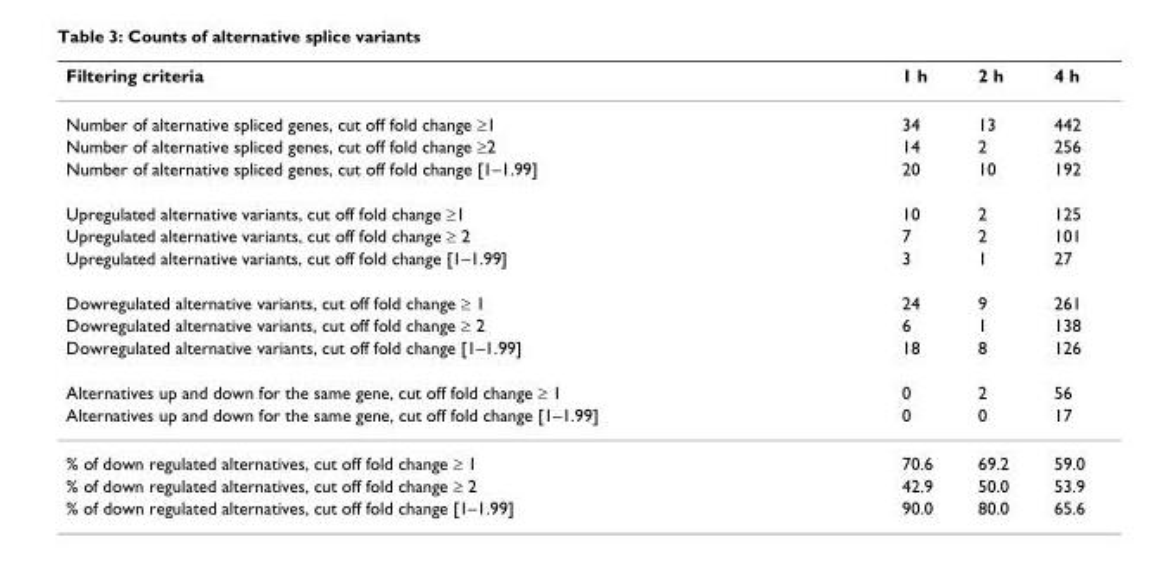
<table><thead><tr><td>Filtering criteria</td><td>1 h</td><td>2 h</td><td>4 h</td></tr></thead><tbody><tr><td>Number of alternative spliced genes, cut off fold change ≥1</td><td>34</td><td>13</td><td>442</td></tr><tr><td>Number of alternative spliced genes, cut off fold change ≥2</td><td>14</td><td>2</td><td>256</td></tr><tr><td>Number of alternative spliced genes, cut off fold change [1–1.99]</td><td>20</td><td>10</td><td>192</td></tr><tr><td>Upregulated alternative variants, cut off fold change ≥1</td><td>10</td><td>2</td><td>125</td></tr><tr><td>Upregulated alternative variants, cut off fold change ≥ 2</td><td>7</td><td>2</td><td>101</td></tr><tr><td>Upregulated alternative variants, cut off fold change [1–1.99]</td><td>3</td><td>1</td><td>27</td></tr><tr><td>Dowregulated alternative variants, cut off fold change ≥ 1</td><td>24</td><td>9</td><td>261</td></tr><tr><td>Dowregulated alternative variants, cut off fold change ≥ 2</td><td>6</td><td>1</td><td>138</td></tr><tr><td>Dowregulated alternative variants, cut off fold change [1–1.99]</td><td>18</td><td>8</td><td>126</td></tr><tr><td>Alternatives up and down for the same gene, cut off fold change ≥ 1</td><td>0</td><td>2</td><td>56</td></tr><tr><td>Alternatives up and down for the same gene, cut off fold change [1–1.99]</td><td>0</td><td>0</td><td>17</td></tr><tr><td>% of down regulated alternatives, cut off fold change ≥ 1</td><td>70.6</td><td>69.2</td><td>59.0</td></tr><tr><td>% of down regulated alternatives, cut off fold change ≥ 2</td><td>42.9</td><td>50.0</td><td>53.9</td></tr><tr><td>% of down regulated alternatives, cut off fold change [1–1.99]</td><td>90.0</td><td>80.0</td><td>65.6</td></tr></tbody></table>